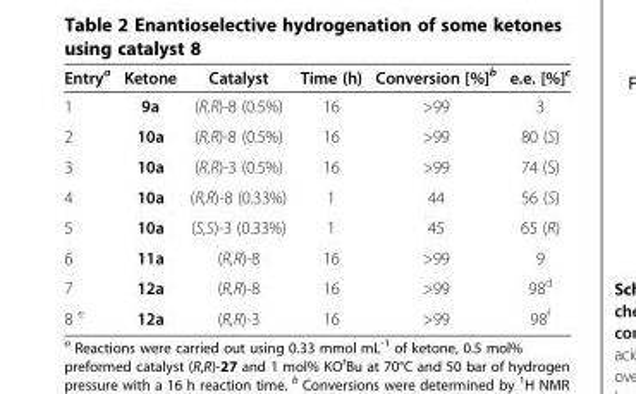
<table><thead><tr><td>Entry<sup>a</sup></td><td>Ketone</td><td>Catalyst</td><td>Time (h)</td><td>Conversion [%]<sup>b</sup></td><td>e.e. [%]<sup>c</sup></td></tr></thead><tbody><tr><td>1</td><td>9a</td><td>(R,R)-8 (0.5%)</td><td>16</td><td>&gt;99</td><td>3</td></tr><tr><td>2</td><td>10a</td><td>(R,R)-8 (0.5%)</td><td>16</td><td>&gt;99</td><td>80 (S)</td></tr><tr><td>3</td><td>10a</td><td>(R,R)-3 (0.5%)</td><td>16</td><td>&gt;99</td><td>74 (S)</td></tr><tr><td>4</td><td>10a</td><td>(R,R)-8 (0.33%)</td><td>1</td><td>44</td><td>56 (S)</td></tr><tr><td>5</td><td>10a</td><td>(S,S)-3 (0.33%)</td><td>1</td><td>45</td><td>65 (R)</td></tr><tr><td>6</td><td>11a</td><td>(R,R)-8</td><td>16</td><td>&gt;99</td><td>9</td></tr><tr><td>7</td><td>12a</td><td>(R,R)-8</td><td>16</td><td>&gt;99</td><td>98<sup>d</sup></td></tr><tr><td>8 <sup>e</sup></td><td>12a</td><td>(R,R)-3</td><td>16</td><td>&gt;99</td><td>98<sup>f</sup></td></tr></tbody></table>